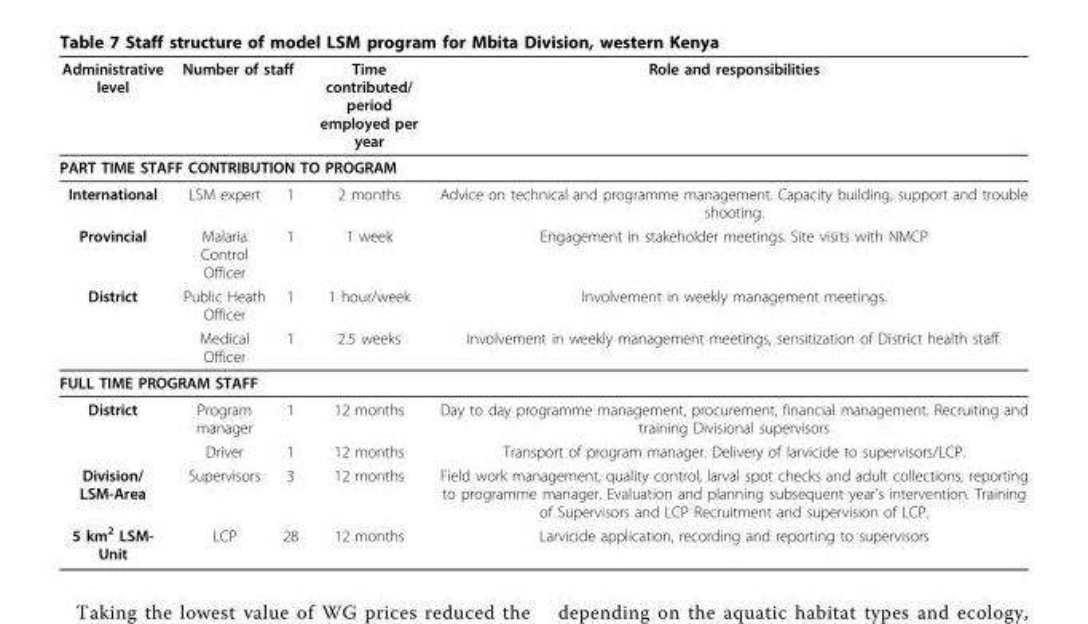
<table><thead><tr><td>Administrative level</td><td colspan="2">Number of staff</td><td>Time contributed/ period employed per year</td><td>Role and responsibilities</td></tr><tr><td colspan="5">PART TIME STAFF CONTRIBUTION TO PROGRAM</td></tr><tr><td>International</td><td>LSM expert</td><td>1</td><td>2 months</td><td>Advice on technical and programme management. Capacity building, support and trouble shooting.</td></tr></thead><tbody><tr><td>Provincial</td><td>Malaria Control Officer</td><td>1</td><td>1 week</td><td>Engagement in stakeholder meetings. Site visits with NMCP</td></tr><tr><td rowspan="2">District</td><td>Public Heath Officer</td><td>1</td><td>1 hour/week</td><td>Involvement in weekly management meetings.</td></tr><tr><td>Medical Officer</td><td>1</td><td>2.5 weeks</td><td>Involvement in weekly management meetings, sensitization of District health staff.</td></tr><tr><td colspan="5">FULL TIME PROGRAM STAFF</td></tr><tr><td rowspan="2">District</td><td>Program manager</td><td>1</td><td>12 months</td><td>Day to day programme management, procurement, financial management. Recruiting and training Divisional supervisors</td></tr><tr><td>Driver</td><td>1</td><td>12 months</td><td>Transport of program manager. Delivery of larvicide to supervisors/LCP.</td></tr><tr><td>Division/ LSM-Area</td><td>Supervisors</td><td>3</td><td>12 months</td><td>Field work management, quality control, larval spot checks and adult collections, reporting to programme manager. Evaluation and planning subsequent year’s intervention. Training of Supervisors and LCP Recruitment and supervision of LCP.</td></tr><tr><td>5 km<sup>2</sup> LSM- Unit</td><td>LCP</td><td>28</td><td>12 months</td><td>Larvicide application, recording and reporting to supervisors</td></tr></tbody></table>